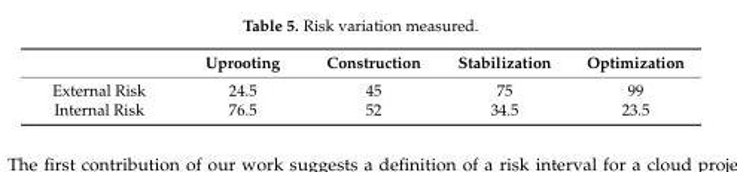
<table><thead><tr><td></td><td>Uprooting</td><td>Construction</td><td>Stabilization</td><td>Optimization</td></tr></thead><tbody><tr><td>External Risk</td><td>24.5</td><td>45</td><td>75</td><td>99</td></tr><tr><td>Internal Risk</td><td>76.5</td><td>52</td><td>34.5</td><td>23.5</td></tr></tbody></table>